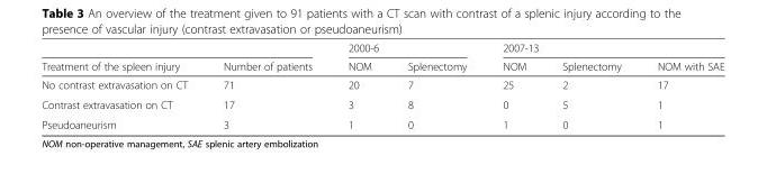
<table><thead><tr><td rowspan="2">Treatment of the spleen injury</td><td rowspan="2">Number of patients</td><td colspan="2">2000-6</td><td colspan="3">2007-13</td></tr><tr><td>NOM</td><td>Splenectomy</td><td>NOM</td><td>Splenectomy</td><td>NOM with SAE</td></tr></thead><tbody><tr><td>No contrast extravasation on CT</td><td>71</td><td>20</td><td>7</td><td>25</td><td>2</td><td>17</td></tr><tr><td>Contrast extravasation on CT</td><td>17</td><td>3</td><td>8</td><td>0</td><td>5</td><td>1</td></tr><tr><td>Pseudoaneurism</td><td>3</td><td>1</td><td>0</td><td>1</td><td>0</td><td>1</td></tr></tbody></table>